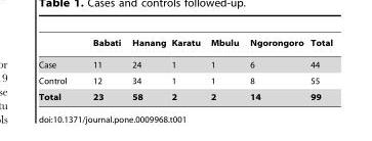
<table><thead><tr><td></td><td>Babati</td><td>Hanang</td><td>Karatu</td><td>Mbulu</td><td>Ngorongoro</td><td>Total</td></tr></thead><tbody><tr><td>Case</td><td>11</td><td>24</td><td>1</td><td>1</td><td>6</td><td>44</td></tr><tr><td>Control</td><td>12</td><td>34</td><td>1</td><td>1</td><td>8</td><td>55</td></tr><tr><td>Total</td><td>23</td><td>58</td><td>2</td><td>2</td><td>14</td><td>99</td></tr></tbody></table>